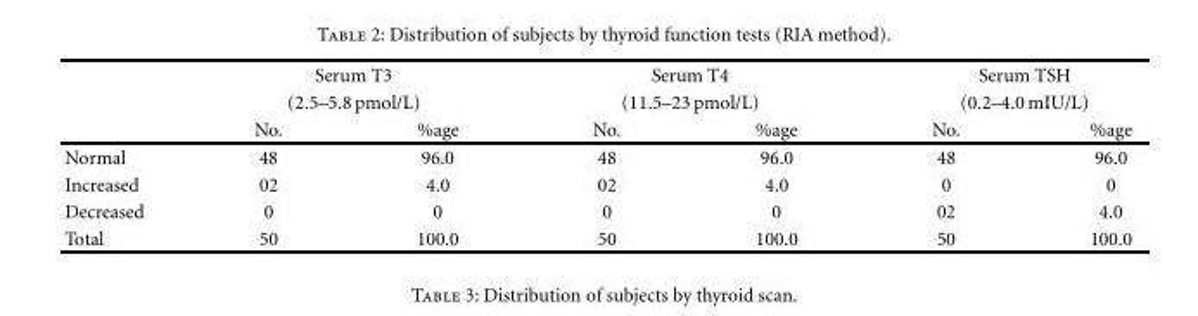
<table><thead><tr><td rowspan="3"></td><td rowspan="2" colspan="2">Serum T3 (2.5–5.8 pmol/L)</td><td rowspan="2" colspan="2">Serum T4 (11.5–23 pmol/L)</td><td rowspan="2" colspan="2">Serum TSH (0.2–4.0 mIU/L)</td></tr><tr></tr><tr><td>No.</td><td>%age</td><td>No.</td><td>%age</td><td>No.</td><td>%age</td></tr></thead><tbody><tr><td>Normal</td><td>48</td><td>96.0</td><td>48</td><td>96.0</td><td>48</td><td>96.0</td></tr><tr><td>Increased</td><td>02</td><td>4.0</td><td>02</td><td>4.0</td><td>0</td><td>0</td></tr><tr><td>Decreased</td><td>0</td><td>0</td><td>0</td><td>0</td><td>02</td><td>4.0</td></tr><tr><td>Total</td><td>50</td><td>100.0</td><td>50</td><td>100.0</td><td>50</td><td>100.0</td></tr></tbody></table>